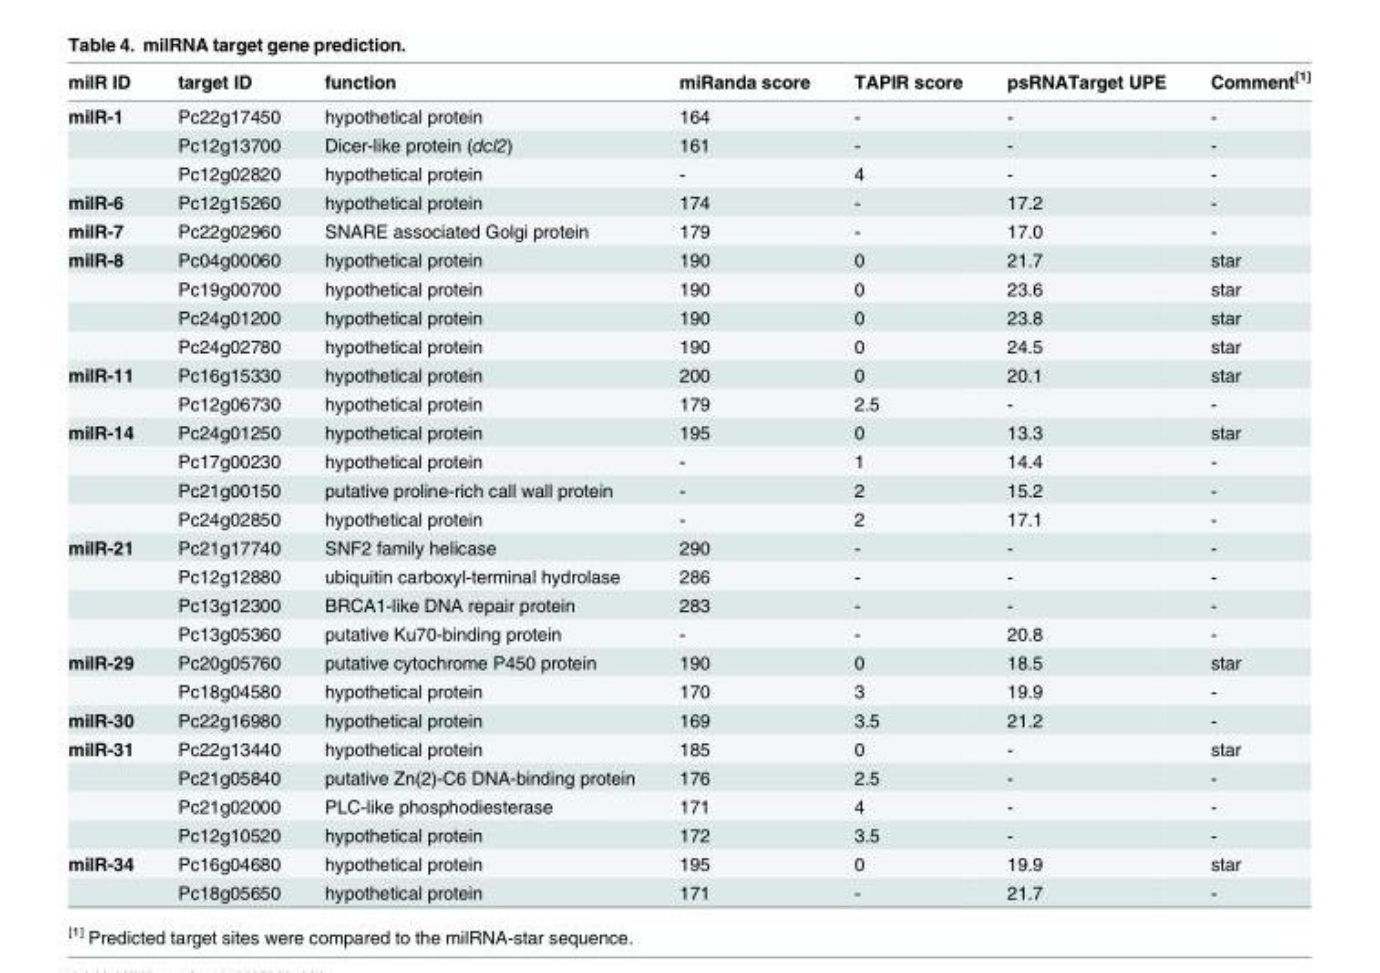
<table><thead><tr><td>milR ID</td><td>target ID</td><td>function</td><td>miRanda score</td><td>TAPIR score</td><td>psRNATarget UPE</td><td>Comment<sup>[1]</sup></td></tr></thead><tbody><tr><td rowspan="3">milR-1</td><td>Pc22g17450</td><td>hypothetical protein</td><td>164</td><td>-</td><td>-</td><td>-</td></tr><tr><td>Pc12g13700</td><td>Dicer-like protein (dcl2)</td><td>161</td><td>-</td><td>-</td><td>-</td></tr><tr><td>Pc12g02820</td><td>hypothetical protein</td><td>-</td><td>4</td><td>-</td><td>-</td></tr><tr><td>milR-6</td><td>Pc12g15260</td><td>hypothetical protein</td><td>174</td><td>-</td><td>17.2</td><td>-</td></tr><tr><td>milR-7</td><td>Pc22g02960</td><td>SNARE associated Golgi protein</td><td>179</td><td>-</td><td>17.0</td><td>-</td></tr><tr><td rowspan="4">milR-8</td><td>Pc04g00060</td><td>hypothetical protein</td><td>190</td><td>0</td><td>21.7</td><td>star</td></tr><tr><td>Pc19g00700</td><td>hypothetical protein</td><td>190</td><td>0</td><td>23.6</td><td>star</td></tr><tr><td>Pc24g01200</td><td>hypothetical protein</td><td>190</td><td>0</td><td>23.8</td><td>star</td></tr><tr><td>Pc24g02780</td><td>hypothetical protein</td><td>190</td><td>0</td><td>24.5</td><td>star</td></tr><tr><td rowspan="2">milR-11</td><td>Pc16g15330</td><td>hypothetical protein</td><td>200</td><td>0</td><td>20.1</td><td>star</td></tr><tr><td>Pc12g06730</td><td>hypothetical protein</td><td>179</td><td>2.5</td><td>-</td><td>-</td></tr><tr><td rowspan="4">milR-14</td><td>Pc24g01250</td><td>hypothetical protein</td><td>195</td><td>0</td><td>13.3</td><td>star</td></tr><tr><td>Pc17g00230</td><td>hypothetical protein</td><td>-</td><td>1</td><td>14.4</td><td>-</td></tr><tr><td>Pc21g00150</td><td>putative proline-rich call wall protein</td><td>-</td><td>2</td><td>15.2</td><td>-</td></tr><tr><td>Pc24g02850</td><td>hypothetical protein</td><td>-</td><td>2</td><td>17.1</td><td>-</td></tr><tr><td rowspan="4">milR-21</td><td>Pc21g17740</td><td>SNF2 family helicase</td><td>290</td><td>-</td><td>-</td><td>-</td></tr><tr><td>Pc12g12880</td><td>ubiquitin carboxyl-terminal hydrolase</td><td>286</td><td>-</td><td>-</td><td>-</td></tr><tr><td>Pc13g12300</td><td>BRCA1-like DNA repair protein</td><td>283</td><td>-</td><td>-</td><td>-</td></tr><tr><td>Pc13g05360</td><td>putative Ku70-binding protein</td><td>-</td><td>-</td><td>20.8</td><td>-</td></tr><tr><td rowspan="2">milR-29</td><td>Pc20g05760</td><td>putative cytochrome P450 protein</td><td>190</td><td>0</td><td>18.5</td><td>star</td></tr><tr><td>Pc18g04580</td><td>hypothetical protein</td><td>170</td><td>3</td><td>19.9</td><td>-</td></tr><tr><td>milR-30</td><td>Pc22g16980</td><td>hypothetical protein</td><td>169</td><td>3.5</td><td>21.2</td><td>-</td></tr><tr><td rowspan="4">milR-31</td><td>Pc22g13440</td><td>hypothetical protein</td><td>185</td><td>0</td><td>-</td><td>star</td></tr><tr><td>Pc21g05840</td><td>putative Zn(2)-C6 DNA-binding protein</td><td>176</td><td>2.5</td><td>-</td><td>-</td></tr><tr><td>Pc21g02000</td><td>PLC-like phosphodiesterase</td><td>171</td><td>4</td><td>-</td><td>-</td></tr><tr><td>Pc12g10520</td><td>hypothetical protein</td><td>172</td><td>3.5</td><td>-</td><td>-</td></tr><tr><td rowspan="2">milR-34</td><td>Pc16g04680</td><td>hypothetical protein</td><td>195</td><td>0</td><td>19.9</td><td>star</td></tr><tr><td>Pc18g05650</td><td>hypothetical protein</td><td>171</td><td>-</td><td>21.7</td><td>-</td></tr></tbody></table>